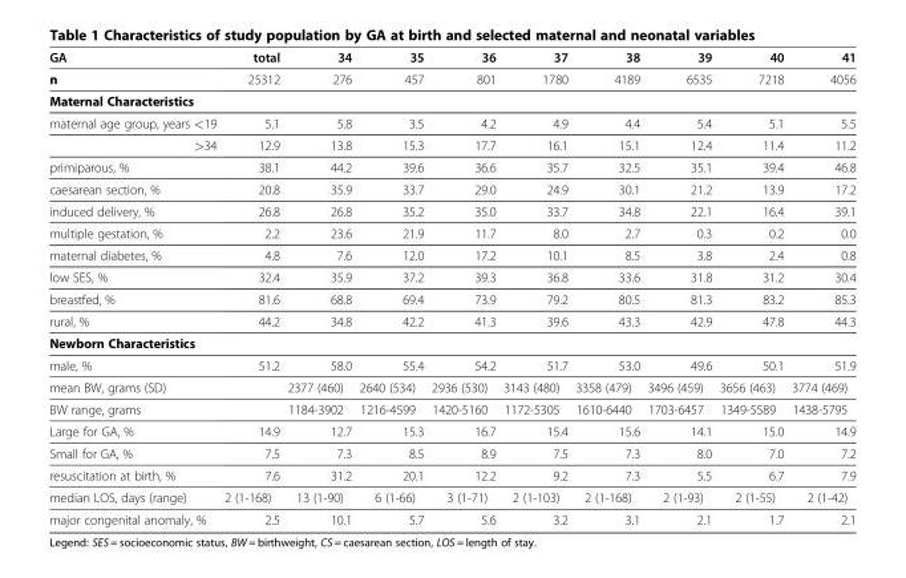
<table><thead><tr><td>GA</td><td>total</td><td>34</td><td>35</td><td>36</td><td>37</td><td>38</td><td>39</td><td>40</td><td>41</td></tr></thead><tbody><tr><td>n</td><td>25312</td><td>276</td><td>457</td><td>801</td><td>1780</td><td>4189</td><td>6535</td><td>7218</td><td>4056</td></tr><tr><td colspan="10">Maternal Characteristics</td></tr><tr><td>maternal age group, years &lt;19</td><td>5.1</td><td>5.8</td><td>3.5</td><td>4.2</td><td>4.9</td><td>4.4</td><td>5.4</td><td>5.1</td><td>5.5</td></tr><tr><td>&gt;34</td><td>12.9</td><td>13.8</td><td>15.3</td><td>17.7</td><td>16.1</td><td>15.1</td><td>12.4</td><td>11.4</td><td>11.2</td></tr><tr><td>primiparous, %</td><td>38.1</td><td>44.2</td><td>39.6</td><td>36.6</td><td>35.7</td><td>32.5</td><td>35.1</td><td>39.4</td><td>46.8</td></tr><tr><td>caesarean section, %</td><td>20.8</td><td>35.9</td><td>33.7</td><td>29.0</td><td>24.9</td><td>30.1</td><td>21.2</td><td>13.9</td><td>17.2</td></tr><tr><td>induced delivery, %</td><td>26.8</td><td>26.8</td><td>35.2</td><td>35.0</td><td>33.7</td><td>34.8</td><td>22.1</td><td>16.4</td><td>39.1</td></tr><tr><td>multiple gestation, %</td><td>2.2</td><td>23.6</td><td>21.9</td><td>11.7</td><td>8.0</td><td>2.7</td><td>0.3</td><td>0.2</td><td>0.0</td></tr><tr><td>maternal diabetes, %</td><td>4.8</td><td>7.6</td><td>12.0</td><td>17.2</td><td>10.1</td><td>8.5</td><td>3.8</td><td>2.4</td><td>0.8</td></tr><tr><td>low SES, %</td><td>32.4</td><td>35.9</td><td>37.2</td><td>39.3</td><td>36.8</td><td>33.6</td><td>31.8</td><td>31.2</td><td>30.4</td></tr><tr><td>breastfed, %</td><td>81.6</td><td>68.8</td><td>69.4</td><td>73.9</td><td>79.2</td><td>80.5</td><td>81.3</td><td>83.2</td><td>85.3</td></tr><tr><td>rural, %</td><td>44.2</td><td>34.8</td><td>42.2</td><td>41.3</td><td>39.6</td><td>43.3</td><td>42.9</td><td>47.8</td><td>44.3</td></tr><tr><td colspan="10">Newborn Characteristics</td></tr><tr><td>male, %</td><td>51.2</td><td>58.0</td><td>55.4</td><td>54.2</td><td>51.7</td><td>53.0</td><td>49.6</td><td>50.1</td><td>51.9</td></tr><tr><td>mean BW, grams (SD)</td><td></td><td>2377 (460)</td><td>2640 (534)</td><td>2936 (530)</td><td>3143 (480)</td><td>3358 (479)</td><td>3496 (459)</td><td>3656 (463)</td><td>3774 (469)</td></tr><tr><td>BW range, grams</td><td></td><td>1184-3902</td><td>1216-4599</td><td>1420-5160</td><td>1172-5305</td><td>1610-6440</td><td>1703-6457</td><td>1349-5589</td><td>1438-5795</td></tr><tr><td>Large for GA, %</td><td>14.9</td><td>12.7</td><td>15.3</td><td>16.7</td><td>15.4</td><td>15.6</td><td>14.1</td><td>15.0</td><td>14.9</td></tr><tr><td>Small for GA, %</td><td>7.5</td><td>7.3</td><td>8.5</td><td>8.9</td><td>7.5</td><td>7.3</td><td>8.0</td><td>7.0</td><td>7.2</td></tr><tr><td>resuscitation at birth, %</td><td>7.6</td><td>31.2</td><td>20.1</td><td>12.2</td><td>9.2</td><td>7.3</td><td>5.5</td><td>6.7</td><td>7.9</td></tr><tr><td>median LOS, days (range)</td><td>2 (1-168)</td><td>13 (1-90)</td><td>6 (1-66)</td><td>3 (1-71)</td><td>2 (1-103)</td><td>2 (1-168)</td><td>2 (1-93)</td><td>2 (1-55)</td><td>2 (1-42)</td></tr><tr><td>major congenital anomaly, %</td><td>2.5</td><td>10.1</td><td>5.7</td><td>5.6</td><td>3.2</td><td>3.1</td><td>2.1</td><td>1.7</td><td>2.1</td></tr></tbody></table>